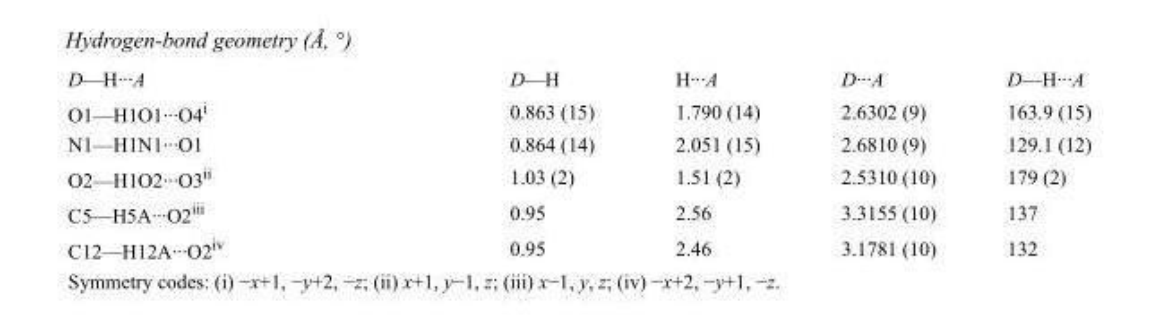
<table><tbody><tr><td>D—H···A</td><td>D—H</td><td>H···A</td><td>D···A</td><td>D—H···A</td></tr><tr><td>O1—H1O1···O4<sup>i</sup></td><td>0.863 (15)</td><td>1.790 (14)</td><td>2.6302 (9)</td><td>163.9 (15)</td></tr><tr><td>N1—H1N1···O1</td><td>0.864 (14)</td><td>2.051 (15)</td><td>2.6810 (9)</td><td>129.1 (12)</td></tr><tr><td>O2—H1O2···O3<sup>ii</sup></td><td>1.03 (2)</td><td>1.51 (2)</td><td>2.5310 (10)</td><td>179 (2)</td></tr><tr><td>C5—H5A···O2<sup>iii</sup></td><td>0.95</td><td>2.56</td><td>3.3155 (10)</td><td>137</td></tr><tr><td>C12—H12A···O2<sup>iv</sup></td><td>0.95</td><td>2.46</td><td>3.1781 (10)</td><td>132</td></tr></tbody></table>